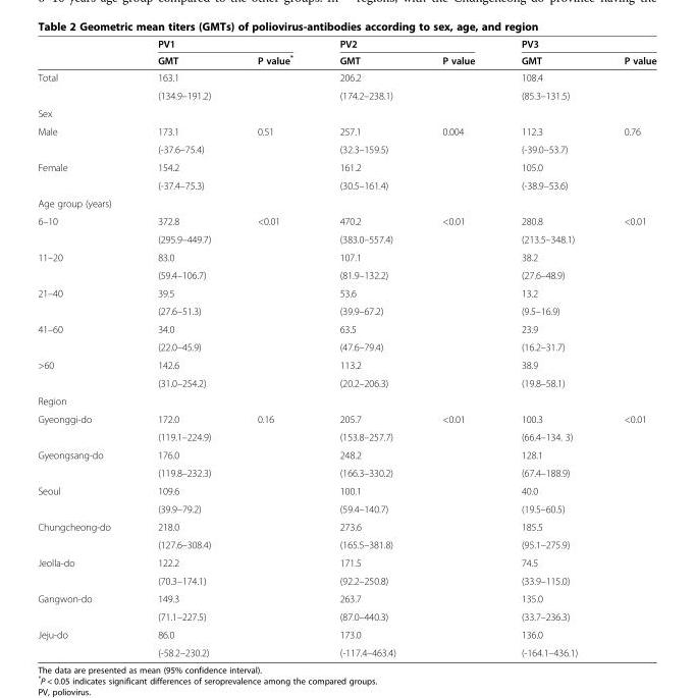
<table><thead><tr><td rowspan="2"></td><td colspan="2">PV1</td><td colspan="2">PV2</td><td colspan="2">PV3</td></tr><tr><td>GMT</td><td>P value*</td><td>GMT</td><td>P value</td><td>GMT</td><td>P value</td></tr></thead><tbody><tr><td rowspan="2">Total</td><td>163.1</td><td></td><td>206.2</td><td></td><td>108.4</td><td></td></tr><tr><td>(134.9–191.2)</td><td></td><td>(174.2–238.1)</td><td></td><td>(85.3–131.5)</td><td></td></tr><tr><td colspan="7">Sex</td></tr><tr><td rowspan="2">Male</td><td>173.1</td><td>0.51</td><td>257.1</td><td>0.004</td><td>112.3</td><td>0.76</td></tr><tr><td>(-37.6–75.4)</td><td></td><td>(32.3–159.5)</td><td></td><td>(-39.0–53.7)</td><td></td></tr><tr><td rowspan="2">Female</td><td>154.2</td><td></td><td>161.2</td><td></td><td>105.0</td><td></td></tr><tr><td>(-37.4–75.3)</td><td></td><td>(30.5–161.4)</td><td></td><td>(-38.9–53.6)</td><td></td></tr><tr><td colspan="7">Age group (years)</td></tr><tr><td rowspan="2">6–10</td><td>372.8</td><td>&lt;0.01</td><td>470.2</td><td>&lt;0.01</td><td>280.8</td><td>&lt;0.01</td></tr><tr><td>(295.9–449.7)</td><td></td><td>(383.0–557.4)</td><td></td><td>(213.5–348.1)</td><td></td></tr><tr><td rowspan="2">11–20</td><td>83.0</td><td></td><td>107.1</td><td></td><td>38.2</td><td></td></tr><tr><td>(59.4–106.7)</td><td></td><td>(81.9–132.2)</td><td></td><td>(27.6–48.9)</td><td></td></tr><tr><td rowspan="2">21–40</td><td>39.5</td><td></td><td>53.6</td><td></td><td>13.2</td><td></td></tr><tr><td>(27.6–51.3)</td><td></td><td>(39.9–67.2)</td><td></td><td>(9.5–16.9)</td><td></td></tr><tr><td rowspan="2">41–60</td><td>34.0</td><td></td><td>63.5</td><td></td><td>23.9</td><td></td></tr><tr><td>(22.0–45.9)</td><td></td><td>(47.6–79.4)</td><td></td><td>(16.2–31.7)</td><td></td></tr><tr><td rowspan="2">&gt;60</td><td>142.6</td><td></td><td>113.2</td><td></td><td>38.9</td><td></td></tr><tr><td>(31.0–254.2)</td><td></td><td>(20.2–206.3)</td><td></td><td>(19.8–58.1)</td><td></td></tr><tr><td colspan="7">Region</td></tr><tr><td rowspan="2">Gyeonggi-do</td><td>172.0</td><td>0.16</td><td>205.7</td><td>&lt;0.01</td><td>100.3</td><td>&lt;0.01</td></tr><tr><td>(119.1–224.9)</td><td></td><td>(153.8–257.7)</td><td></td><td>(66.4–134. 3)</td><td></td></tr><tr><td rowspan="2">Gyeongsang-do</td><td>176.0</td><td></td><td>248.2</td><td></td><td>128.1</td><td></td></tr><tr><td>(119.8–232.3)</td><td></td><td>(166.3–330.2)</td><td></td><td>(67.4–188.9)</td><td></td></tr><tr><td rowspan="2">Seoul</td><td>109.6</td><td></td><td>100.1</td><td></td><td>40.0</td><td></td></tr><tr><td>(39.9–79.2)</td><td></td><td>(59.4–140.7)</td><td></td><td>(19.5–60.5)</td><td></td></tr><tr><td rowspan="2">Chungcheong-do</td><td>218.0</td><td></td><td>273.6</td><td></td><td>185.5</td><td></td></tr><tr><td>(127.6–308.4)</td><td></td><td>(165.5–381.8)</td><td></td><td>(95.1–275.9)</td><td></td></tr><tr><td rowspan="2">Jeolla-do</td><td>122.2</td><td></td><td>171.5</td><td></td><td>74.5</td><td></td></tr><tr><td>(70.3–174.1)</td><td></td><td>(92.2–250.8)</td><td></td><td>(33.9–115.0)</td><td></td></tr><tr><td rowspan="2">Gangwon-do</td><td>149.3</td><td></td><td>263.7</td><td></td><td>135.0</td><td></td></tr><tr><td>(71.1–227.5)</td><td></td><td>(87.0–440.3)</td><td></td><td>(33.7–236.3)</td><td></td></tr><tr><td rowspan="2">Jeju-do</td><td>86.0</td><td></td><td>173.0</td><td></td><td>136.0</td><td></td></tr><tr><td>(-58.2–230.2)</td><td></td><td>(-117.4–463.4)</td><td></td><td>(-164.1–436.1)</td><td></td></tr></tbody></table>